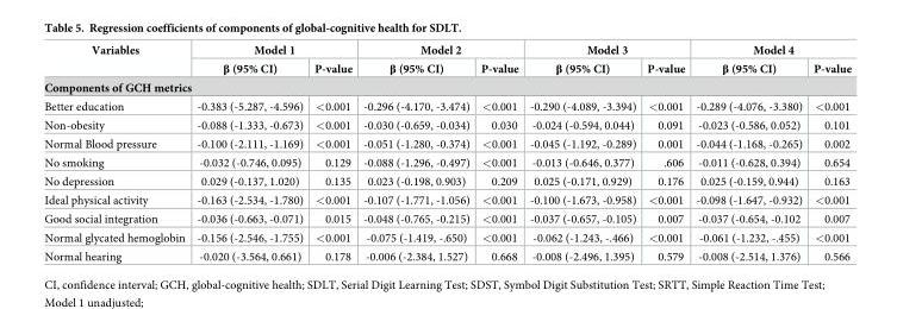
<table><thead><tr><td rowspan="2">Variables</td><td colspan="2">Model 1</td><td colspan="2">Model 2</td><td colspan="2">Model 3</td><td colspan="2">Model 4</td></tr><tr><td>β (95% CI)</td><td>P-value</td><td>β (95% CI)</td><td>P-value</td><td>β (95% CI)</td><td>P-value</td><td>β (95% CI)</td><td>P-value</td></tr><tr><td colspan="9">Components of GCH metrics</td></tr></thead><tbody><tr><td>Better education</td><td>-0.383 (-5.287, -4.596)</td><td>&lt;0.001</td><td>-0.296 (-4.170, -3.474)</td><td>&lt;0.001</td><td>-0.290 (-4.089, -3.394)</td><td>&lt;0.001</td><td>-0.289 (-4.076, -3.380)</td><td>&lt;0.001</td></tr><tr><td>Non-obesity</td><td>-0.088 (-1.333, -0.673)</td><td>&lt;0.001</td><td>-0.030 (-0.659, -0.034)</td><td>0.030</td><td>-0.024 (-0.594, 0.044)</td><td>0.091</td><td>-0.023 (-0.586, 0.052)</td><td>0.101</td></tr><tr><td>Normal Blood pressure</td><td>-0.100 (-2.111, -1.169)</td><td>&lt;0.001</td><td>-0.051 (-1.280, -0.374)</td><td>&lt;0.001</td><td>-0.045 (-1.192, -0.289)</td><td>0.001</td><td>-0.044 (-1.168, -0.265)</td><td>0.002</td></tr><tr><td>No smoking</td><td>-0.032 (-0.746, 0.095)</td><td>0.129</td><td>-0.088 (-1.296, -0.497)</td><td>&lt;0.001</td><td>-0.013 (-0.646, 0.377)</td><td>.606</td><td>-0.011 (-0.628, 0.394)</td><td>0.654</td></tr><tr><td>No depression</td><td>0.029 (-0.137, 1.020)</td><td>0.135</td><td>0.023 (-0.198, 0.903)</td><td>0.209</td><td>0.025 (-0.171, 0.929)</td><td>0.176</td><td>0.025 (-0.159, 0.944)</td><td>0.163</td></tr><tr><td>Ideal physical activity</td><td>-0.163 (-2.534, -1.780)</td><td>&lt;0.001</td><td>-0.107 (-1.771, -1.056)</td><td>&lt;0.001</td><td>-0.100 (-1.673, -0.958)</td><td>&lt;0.001</td><td>-0.098 (-1.647, -0.932)</td><td>&lt;0.001</td></tr><tr><td>Good social integration</td><td>-0.036 (-0.663, -0.071)</td><td>0.015</td><td>-0.048 (-0.765, -0.215)</td><td>&lt;0.001</td><td>-0.037 (-0.657, -0.105)</td><td>0.007</td><td>-0.037 (-0.654, -0.102</td><td>0.007</td></tr><tr><td>Normal glycated hemoglobin</td><td>-0.156 (-2.546, -1.755)</td><td>&lt;0.001</td><td>-0.075 (-1.419, -.650)</td><td>&lt;0.001</td><td>-0.062 (-1.243, -.466)</td><td>&lt;0.001</td><td>-0.061 (-1.232, -.455)</td><td>&lt;0.001</td></tr><tr><td>Normal hearing</td><td>-0.020 (-3.564, 0.661)</td><td>0.178</td><td>-0.006 (-2.384, 1.527)</td><td>0.668</td><td>-0.008 (-2.496, 1.395)</td><td>0.579</td><td>-0.008 (-2.514, 1.376)</td><td>0.566</td></tr></tbody></table>